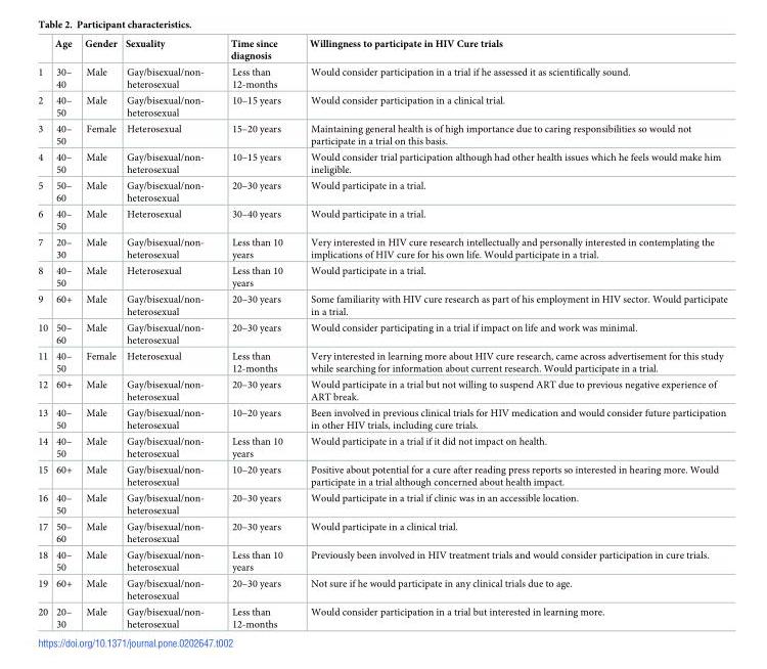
<table><thead><tr><td></td><td>Age</td><td>Gender</td><td>Sexuality</td><td>Time since diagnosis</td><td>Willingness to participate in HIV Cure trials</td></tr></thead><tbody><tr><td>1</td><td>30– 40</td><td>Male</td><td>Gay/bisexual/non- heterosexual</td><td>Less than 12-months</td><td>Would consider participation in a trial if he assessed it as scientifically sound.</td></tr><tr><td>2</td><td>40– 50</td><td>Male</td><td>Gay/bisexual/non- heterosexual</td><td>10–15 years</td><td>Would consider participation in a clinical trial.</td></tr><tr><td>3</td><td>40– 50</td><td>Female</td><td>Heterosexual</td><td>15–20 years</td><td>Maintaining general health is of high importance due to caring responsibilities so would not participate in a trial on this basis.</td></tr><tr><td>4</td><td>40– 50</td><td>Male</td><td>Gay/bisexual/non- heterosexual</td><td>10–15 years</td><td>Would consider trial participation although had other health issues which he feels would make him ineligible.</td></tr><tr><td>5</td><td>50– 60</td><td>Male</td><td>Gay/bisexual/non- heterosexual</td><td>20–30 years</td><td>Would participate in a trial.</td></tr><tr><td>6</td><td>40– 50</td><td>Male</td><td>Heterosexual</td><td>30–40 years</td><td>Would participate in a trial.</td></tr><tr><td>7</td><td>20– 30</td><td>Male</td><td>Gay/bisexual/non- heterosexual</td><td>Less than 10 years</td><td>Very interested in HIV cure research intellectually and personally interested in contemplating the implications of HIV cure for his own life. Would participate in a trial.</td></tr><tr><td>8</td><td>40– 50</td><td>Male</td><td>Heterosexual</td><td>Less than 10 years</td><td>Would participate in a trial.</td></tr><tr><td>9</td><td>60+</td><td>Male</td><td>Gay/bisexual/non- heterosexual</td><td>20–30 years</td><td>Some familiarity with HIV cure research as part of his employment in HIV sector. Would participate in a trial.</td></tr><tr><td>10</td><td>50– 60</td><td>Male</td><td>Gay/bisexual/non- heterosexual</td><td>20–30 years</td><td>Would consider participating in a trial if impact on life and work was minimal.</td></tr><tr><td>11</td><td>40– 50</td><td>Female</td><td>Heterosexual</td><td>Less than 12-months</td><td>Very interested in learning more about HIV cure research, came across advertisement for this study while searching for information about current research. Would participate in a trial.</td></tr><tr><td>12</td><td>60+</td><td>Male</td><td>Gay/bisexual/non- heterosexual</td><td>20–30 years</td><td>Would participate in a trial but not willing to suspend ART due to previous negative experience of ART break.</td></tr><tr><td>13</td><td>40– 50</td><td>Male</td><td>Gay/bisexual/non- heterosexual</td><td>10–20 years</td><td>Been involved in previous clinical trials for HIV medication and would consider future participation in other HIV trials, including cure trials.</td></tr><tr><td>14</td><td>40– 50</td><td>Male</td><td>Gay/bisexual/non- heterosexual</td><td>Less than 10 years</td><td>Would participate in a trial if it did not impact on health.</td></tr><tr><td>15</td><td>60+</td><td>Male</td><td>Gay/bisexual/non- heterosexual</td><td>10–20 years</td><td>Positive about potential for a cure after reading press reports so interested in hearing more. Would participate in a trial although concerned about health impact.</td></tr><tr><td>16</td><td>40– 50</td><td>Male</td><td>Gay/bisexual/non- heterosexual</td><td>20–30 years</td><td>Would participate in a trial if clinic was in an accessible location.</td></tr><tr><td>17</td><td>50– 60</td><td>Male</td><td>Gay/bisexual/non- heterosexual</td><td>20–30 years</td><td>Would participate in a clinical trial.</td></tr><tr><td>18</td><td>40– 50</td><td>Male</td><td>Gay/bisexual/non- heterosexual</td><td>Less than 10 years</td><td>Previously been involved in HIV treatment trials and would consider participation in cure trials.</td></tr><tr><td>19</td><td>60+</td><td>Male</td><td>Gay/bisexual/non- heterosexual</td><td>20–30 years</td><td>Not sure if he would participate in any clinical trials due to age.</td></tr><tr><td>20</td><td>20– 30</td><td>Male</td><td>Gay/bisexual/non- heterosexual</td><td>Less than 12-months</td><td>Would consider participation in a trial but interested in learning more.</td></tr></tbody></table>